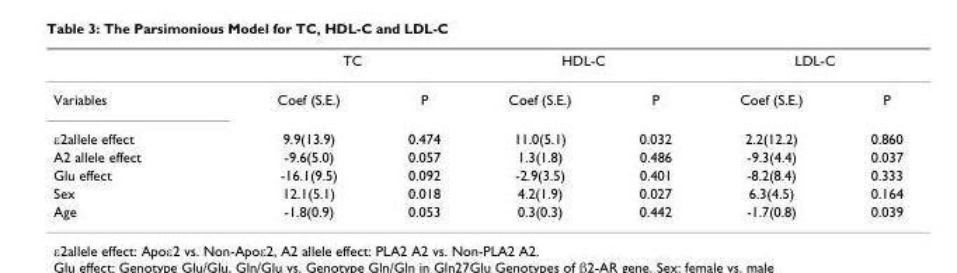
<table><thead><tr><td rowspan="2">Variables</td><td colspan="2">TC</td><td colspan="2">HDL-C</td><td colspan="2">LDL-C</td></tr><tr><td>Coef (S.E.)</td><td>P</td><td>Coef (S.E.)</td><td>P</td><td>Coef (S.E.)</td><td>P</td></tr></thead><tbody><tr><td>ε2allele effect</td><td>9.9(13.9)</td><td>0.474</td><td>11.0(5.1)</td><td>0.032</td><td>2.2(12.2)</td><td>0.860</td></tr><tr><td>A2 allele effect</td><td>-9.6(5.0)</td><td>0.057</td><td>1.3(1.8)</td><td>0.486</td><td>-9.3(4.4)</td><td>0.037</td></tr><tr><td>Glu effect</td><td>-16.1(9.5)</td><td>0.092</td><td>-2.9(3.5)</td><td>0.401</td><td>-8.2(8.4)</td><td>0.333</td></tr><tr><td>Sex</td><td>12.1(5.1)</td><td>0.018</td><td>4.2(1.9)</td><td>0.027</td><td>6.3(4.5)</td><td>0.164</td></tr><tr><td>Age</td><td>-1.8(0.9)</td><td>0.053</td><td>0.3(0.3)</td><td>0.442</td><td>-1.7(0.8)</td><td>0.039</td></tr></tbody></table>